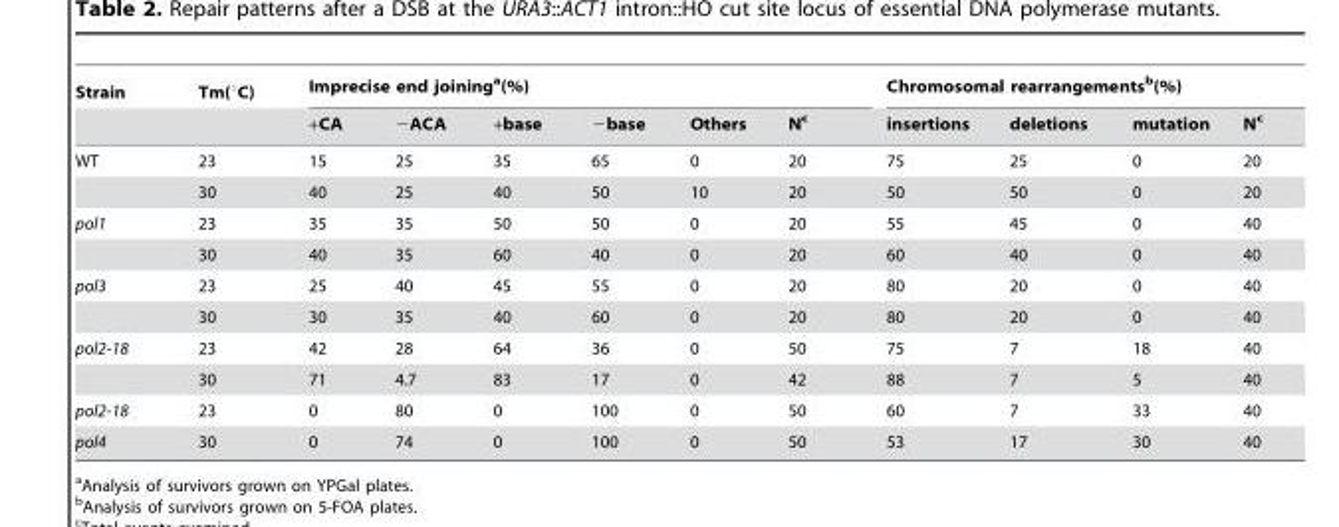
<table><thead><tr><td rowspan="2">Strain</td><td rowspan="2">Tm(°C)</td><td colspan="6">Imprecise end joining<sup>a</sup>(%)</td><td colspan="4">Chromosomal rearrangements<sup>b</sup>(%)</td></tr><tr><td>+CA</td><td>−ACA</td><td>+base</td><td>−base</td><td>Others</td><td>N<sup>c</sup></td><td>insertions</td><td>deletions</td><td>mutation</td><td>N<sup>c</sup></td></tr></thead><tbody><tr><td rowspan="2">WT</td><td>23</td><td>15</td><td>25</td><td>35</td><td>65</td><td>0</td><td>20</td><td>75</td><td>25</td><td>0</td><td>20</td></tr><tr><td>30</td><td>40</td><td>25</td><td>40</td><td>50</td><td>10</td><td>20</td><td>50</td><td>50</td><td>0</td><td>20</td></tr><tr><td rowspan="2">pol1</td><td>23</td><td>35</td><td>35</td><td>50</td><td>50</td><td>0</td><td>20</td><td>55</td><td>45</td><td>0</td><td>40</td></tr><tr><td>30</td><td>40</td><td>35</td><td>60</td><td>40</td><td>0</td><td>20</td><td>60</td><td>40</td><td>0</td><td>40</td></tr><tr><td rowspan="2">pol3</td><td>23</td><td>25</td><td>40</td><td>45</td><td>55</td><td>0</td><td>20</td><td>80</td><td>20</td><td>0</td><td>40</td></tr><tr><td>30</td><td>30</td><td>35</td><td>40</td><td>60</td><td>0</td><td>20</td><td>80</td><td>20</td><td>0</td><td>40</td></tr><tr><td rowspan="2">pol2-18</td><td>23</td><td>42</td><td>28</td><td>64</td><td>36</td><td>0</td><td>50</td><td>75</td><td>7</td><td>18</td><td>40</td></tr><tr><td>30</td><td>71</td><td>4.7</td><td>83</td><td>17</td><td>0</td><td>42</td><td>88</td><td>7</td><td>5</td><td>40</td></tr><tr><td>pol2-18</td><td>23</td><td>0</td><td>80</td><td>0</td><td>100</td><td>0</td><td>50</td><td>60</td><td>7</td><td>33</td><td>40</td></tr><tr><td>pol4</td><td>30</td><td>0</td><td>74</td><td>0</td><td>100</td><td>0</td><td>50</td><td>53</td><td>17</td><td>30</td><td>40</td></tr></tbody></table>